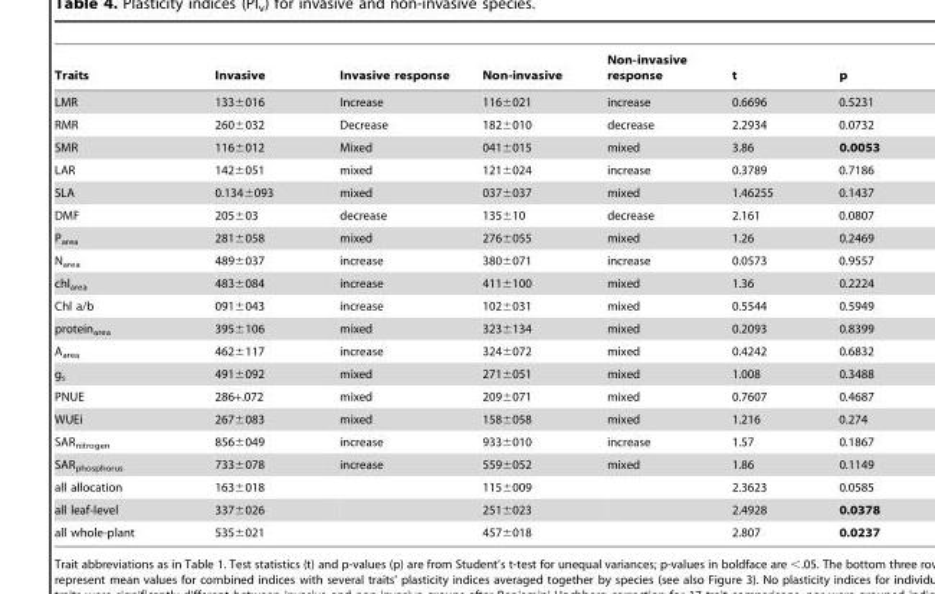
<table><thead><tr><td>Traits</td><td>Invasive</td><td>Invasive response</td><td>Non-invasive</td><td>Non-invasive response</td><td>t</td><td>p</td></tr></thead><tbody><tr><td>LMR</td><td>133±016</td><td>Increase</td><td>116±021</td><td>increase</td><td>0.6696</td><td>0.5231</td></tr><tr><td>RMR</td><td>260±032</td><td>Decrease</td><td>182±010</td><td>decrease</td><td>2.2934</td><td>0.0732</td></tr><tr><td>SMR</td><td>116±012</td><td>Mixed</td><td>041±015</td><td>mixed</td><td>3.86</td><td>0.0053</td></tr><tr><td>LAR</td><td>142±051</td><td>mixed</td><td>121±024</td><td>increase</td><td>0.3789</td><td>0.7186</td></tr><tr><td>SLA</td><td>0.134±093</td><td>mixed</td><td>037±037</td><td>mixed</td><td>1.46255</td><td>0.1437</td></tr><tr><td>DMF</td><td>205±03</td><td>decrease</td><td>135±10</td><td>decrease</td><td>2.161</td><td>0.0807</td></tr><tr><td>P<sub>area</sub></td><td>281±058</td><td>mixed</td><td>276±055</td><td>mixed</td><td>1.26</td><td>0.2469</td></tr><tr><td>N<sub>area</sub></td><td>489±037</td><td>increase</td><td>380±071</td><td>increase</td><td>0.0573</td><td>0.9557</td></tr><tr><td>chl<sub>area</sub></td><td>483±084</td><td>increase</td><td>411±100</td><td>mixed</td><td>1.36</td><td>0.2224</td></tr><tr><td>Chl a/b</td><td>091±043</td><td>increase</td><td>102±031</td><td>mixed</td><td>0.5544</td><td>0.5949</td></tr><tr><td>protein<sub>area</sub></td><td>395±106</td><td>mixed</td><td>323±134</td><td>mixed</td><td>0.2093</td><td>0.8399</td></tr><tr><td>A<sub>area</sub></td><td>462±117</td><td>increase</td><td>324±072</td><td>mixed</td><td>0.4242</td><td>0.6832</td></tr><tr><td>g<sub>s</sub></td><td>491±092</td><td>mixed</td><td>271±051</td><td>mixed</td><td>1.008</td><td>0.3488</td></tr><tr><td>PNUE</td><td>286+.072</td><td>mixed</td><td>209±071</td><td>mixed</td><td>0.7607</td><td>0.4687</td></tr><tr><td>WUEi</td><td>267±083</td><td>mixed</td><td>158±058</td><td>mixed</td><td>1.216</td><td>0.274</td></tr><tr><td>SAR<sub>nitrogen</sub></td><td>856±049</td><td>increase</td><td>933±010</td><td>increase</td><td>1.57</td><td>0.1867</td></tr><tr><td>SAR<sub>phosphorus</sub></td><td>733±078</td><td>increase</td><td>559±052</td><td>mixed</td><td>1.86</td><td>0.1149</td></tr><tr><td>all allocation</td><td>163±018</td><td></td><td>115±009</td><td></td><td>2.3623</td><td>0.0585</td></tr><tr><td>all leaf-level</td><td>337±026</td><td></td><td>251±023</td><td></td><td>2.4928</td><td>0.0378</td></tr><tr><td>all whole-plant</td><td>535±021</td><td></td><td>457±018</td><td></td><td>2.807</td><td>0.0237</td></tr></tbody></table>